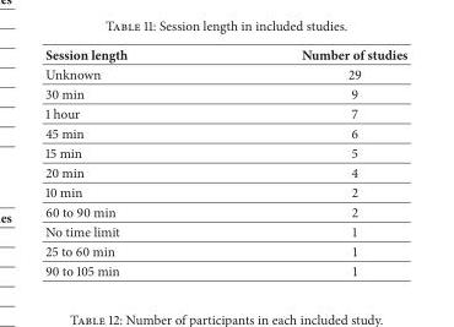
<table><thead><tr><td>Session length</td><td>Number of studies</td></tr></thead><tbody><tr><td>Unknown</td><td>29</td></tr><tr><td>30 min</td><td>9</td></tr><tr><td>1 hour</td><td>7</td></tr><tr><td>45 min</td><td>6</td></tr><tr><td>15 min</td><td>5</td></tr><tr><td>20 min</td><td>4</td></tr><tr><td>10 min</td><td>2</td></tr><tr><td>60 to 90 min</td><td>2</td></tr><tr><td>No time limit</td><td>1</td></tr><tr><td>25 to 60 min</td><td>1</td></tr><tr><td>90 to 105 min</td><td>1</td></tr></tbody></table>